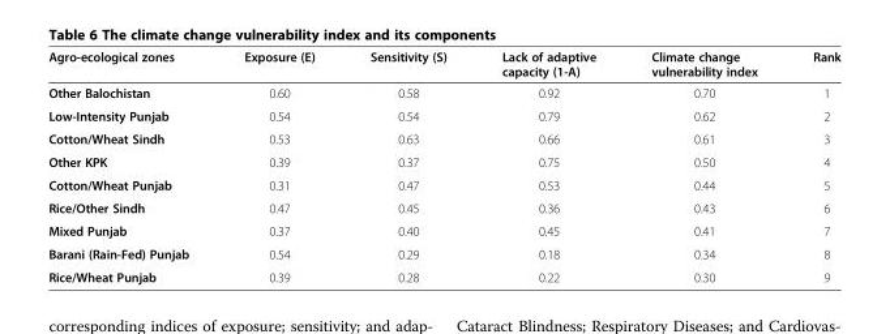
<table><thead><tr><td>Agro-ecological zones</td><td>Exposure (E)</td><td>Sensitivity (S)</td><td>Lack of adaptive capacity (1-A)</td><td>Climate change vulnerability index</td><td>Rank</td></tr></thead><tbody><tr><td>Other Balochistan</td><td>0.60</td><td>0.58</td><td>0.92</td><td>0.70</td><td>1</td></tr><tr><td>Low-Intensity Punjab</td><td>0.54</td><td>0.54</td><td>0.79</td><td>0.62</td><td>2</td></tr><tr><td>Cotton/Wheat Sindh</td><td>0.53</td><td>0.63</td><td>0.66</td><td>0.61</td><td>3</td></tr><tr><td>Other KPK</td><td>0.39</td><td>0.37</td><td>0.75</td><td>0.50</td><td>4</td></tr><tr><td>Cotton/Wheat Punjab</td><td>0.31</td><td>0.47</td><td>0.53</td><td>0.44</td><td>5</td></tr><tr><td>Rice/Other Sindh</td><td>0.47</td><td>0.45</td><td>0.36</td><td>0.43</td><td>6</td></tr><tr><td>Mixed Punjab</td><td>0.37</td><td>0.40</td><td>0.45</td><td>0.41</td><td>7</td></tr><tr><td>Barani (Rain-Fed) Punjab</td><td>0.54</td><td>0.29</td><td>0.18</td><td>0.34</td><td>8</td></tr><tr><td>Rice/Wheat Punjab</td><td>0.39</td><td>0.28</td><td>0.22</td><td>0.30</td><td>9</td></tr></tbody></table>